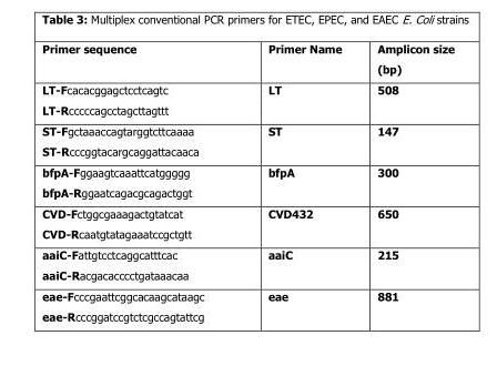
<table><thead><tr><td>Primer sequence</td><td>Primer Name</td><td>Amplicon size (bp)</td></tr></thead><tbody><tr><td>LT-Fcacacggagctcctcagtc LT-Rcccccagcctagcttagttt</td><td>LT</td><td>508</td></tr><tr><td>ST-Fgctaaaccagtarggtcttcaaaa ST-Rcccggtacargcaggattacaaca</td><td>ST</td><td>147</td></tr><tr><td>bfpA-Fggaagtcaaattcatggggg bfpA-Rggaatcagacgcagactggt</td><td>bfpA</td><td>300</td></tr><tr><td>CVD-Fctggcgaaagactgtatcat CVD-Rcaatgtatagaaatccgctgtt</td><td>CVD432</td><td>650</td></tr><tr><td>aaiC-Fattgtcctcaggcatttcac aaiC-Racgacacccctgataaacaa</td><td>aaiC</td><td>215</td></tr><tr><td>eae-Fcccgaattcggcacaagcataagc eae-Rcccggatccgtctcgccagtattcg</td><td>eae</td><td>881</td></tr></tbody></table>